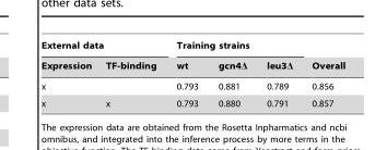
<table><thead><tr><td colspan="2">External data</td><td colspan="3">Training strains</td><td rowspan="2">Overall</td></tr><tr><td>Expression</td><td>TF-binding</td><td>wt</td><td>gcn4Δ</td><td>leu3Δ</td></tr></thead><tbody><tr><td>x</td><td></td><td>0.793</td><td>0.881</td><td>0.789</td><td>0.856</td></tr><tr><td>x</td><td>x</td><td>0.793</td><td>0.880</td><td>0.791</td><td>0.857</td></tr></tbody></table>